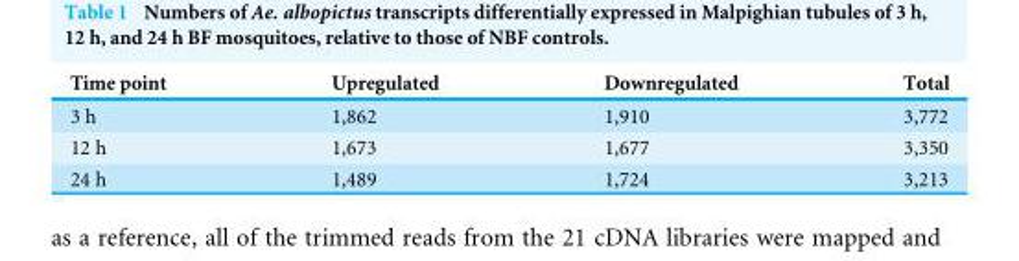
<table><thead><tr><td>Time point</td><td>Upregulated</td><td>Downregulated</td><td>Total</td></tr></thead><tbody><tr><td>3 h</td><td>1,862</td><td>1,910</td><td>3,772</td></tr><tr><td>12 h</td><td>1,673</td><td>1,677</td><td>3,350</td></tr><tr><td>24 h</td><td>1,489</td><td>1,724</td><td>3,213</td></tr></tbody></table>